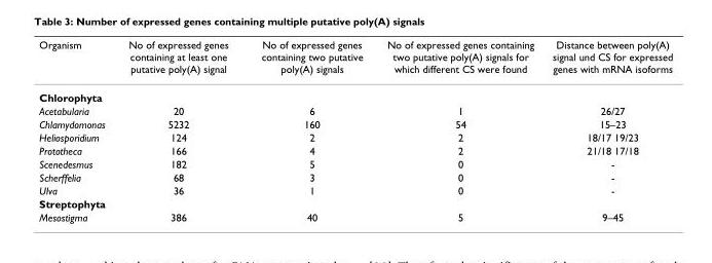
<table><thead><tr><td>Organism</td><td>No of expressed genes containing at least one putative poly(A) signal</td><td>No of expressed genes containing two putative poly(A) signals</td><td>No of expressed genes containing two putative poly(A) signals for which different CS were found</td><td>Distance between poly(A) signal und CS for expressed genes with mRNA isoforms</td></tr></thead><tbody><tr><td colspan="5">Chlorophyta</td></tr><tr><td>Acetabularia</td><td>20</td><td>6</td><td>1</td><td>26/27</td></tr><tr><td>Chlamydomonas</td><td>5232</td><td>160</td><td>54</td><td>15–23</td></tr><tr><td>Heliosporidium</td><td>124</td><td>2</td><td>2</td><td>18/17 19/23</td></tr><tr><td>Prototheca</td><td>166</td><td>4</td><td>2</td><td>21/18 17/18</td></tr><tr><td>Scenedesmus</td><td>182</td><td>5</td><td>0</td><td>-</td></tr><tr><td>Scherffelia</td><td>68</td><td>3</td><td>0</td><td>-</td></tr><tr><td>Ulva</td><td>36</td><td>1</td><td>0</td><td>-</td></tr><tr><td colspan="5">Streptophyta</td></tr><tr><td>Mesostigma</td><td>386</td><td>40</td><td>5</td><td>9–45</td></tr></tbody></table>